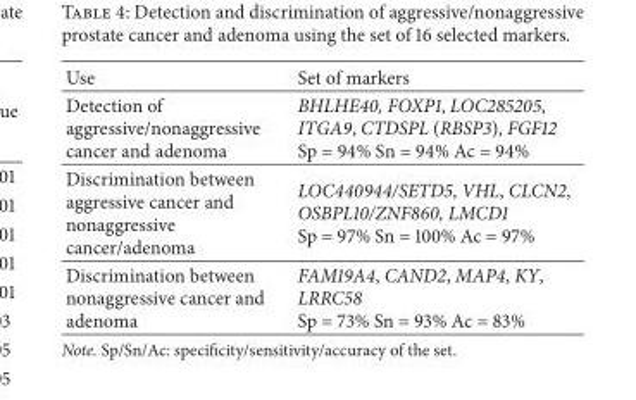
<table><thead><tr><td>Use</td><td>Set of markers</td></tr></thead><tbody><tr><td>Detection of aggressive/nonaggressive cancer and adenoma</td><td>BHLHE40, FOXP1, LOC285205, ITGA9, CTDSPL (RBSP3), FGF12 Sp = 94% Sn = 94% Ac = 94%</td></tr><tr><td>Discrimination between aggressive cancer and nonaggressive cancer/adenoma</td><td>LOC440944/SETD5, VHL, CLCN2, OSBPL10/ZNF860, LMCD1 Sp = 97% Sn = 100% Ac = 97%</td></tr><tr><td>Discrimination between nonaggressive cancer and adenoma</td><td>FAM19A4, CAND2, MAP4, KY, LRRC58 Sp = 73% Sn = 93% Ac = 83%</td></tr></tbody></table>